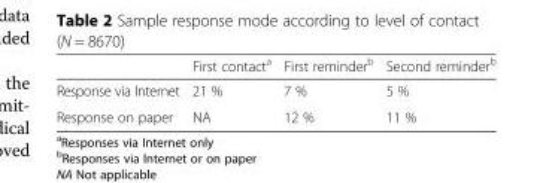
<table><thead><tr><td></td><td>First contact<sup>a</sup></td><td>First reminder<sup>b</sup></td><td>Second reminder<sup>b</sup></td></tr></thead><tbody><tr><td>Response via Internet</td><td>21 %</td><td>7 %</td><td>5 %</td></tr><tr><td>Response on paper</td><td>NA</td><td>12 %</td><td>11 %</td></tr></tbody></table>